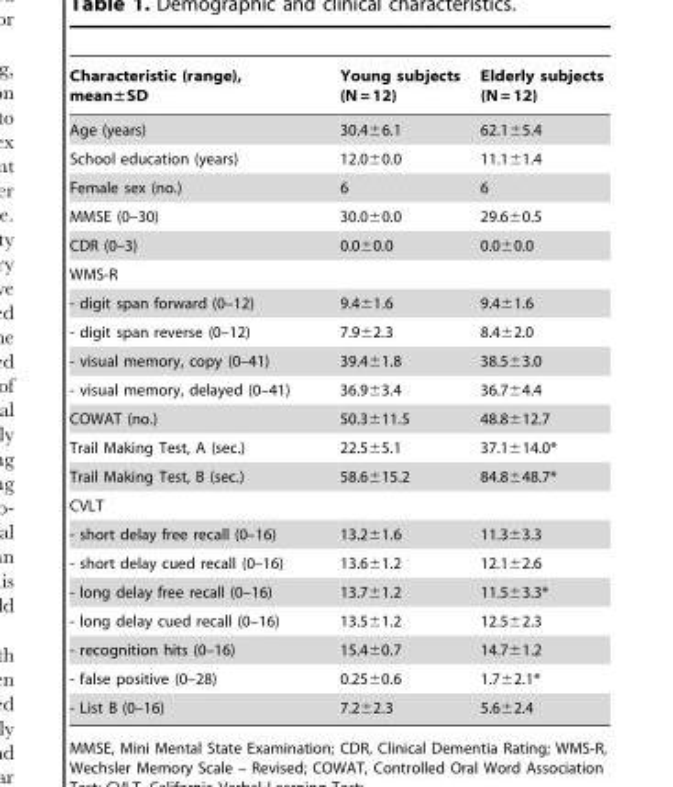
<table><thead><tr><td>Characteristic (range), mean±SD</td><td>Young subjects (N = 12)</td><td>Elderly subjects (N = 12)</td></tr></thead><tbody><tr><td>Age (years)</td><td>30.4±6.1</td><td>62.1±5.4</td></tr><tr><td>School education (years)</td><td>12.0±0.0</td><td>11.1±1.4</td></tr><tr><td>Female sex (no.)</td><td>6</td><td>6</td></tr><tr><td>MMSE (0–30)</td><td>30.0±0.0</td><td>29.6±0.5</td></tr><tr><td>CDR (0–3)</td><td>0.0±0.0</td><td>0.0±0.0</td></tr><tr><td colspan="3">WMS-R</td></tr><tr><td>- digit span forward (0–12)</td><td>9.4±1.6</td><td>9.4±1.6</td></tr><tr><td>- digit span reverse (0–12)</td><td>7.9±2.3</td><td>8.4±2.0</td></tr><tr><td>- visual memory, copy (0–41)</td><td>39.4±1.8</td><td>38.5±3.0</td></tr><tr><td>- visual memory, delayed (0–41)</td><td>36.9±3.4</td><td>36.7±4.4</td></tr><tr><td>COWAT (no.)</td><td>50.3±11.5</td><td>48.8±12.7</td></tr><tr><td>Trail Making Test, A (sec.)</td><td>22.5±5.1</td><td>37.1±14.0*</td></tr><tr><td>Trail Making Test, B (sec.)</td><td>58.6±15.2</td><td>84.8±48.7*</td></tr><tr><td colspan="3">CVLT</td></tr><tr><td>- short delay free recall (0–16)</td><td>13.2±1.6</td><td>11.3±3.3</td></tr><tr><td>- short delay cued recall (0–16)</td><td>13.6±1.2</td><td>12.1±2.6</td></tr><tr><td>- long delay free recall (0–16)</td><td>13.7±1.2</td><td>11.5±3.3*</td></tr><tr><td>- long delay cued recall (0–16)</td><td>13.5±1.2</td><td>12.5±2.3</td></tr><tr><td>- recognition hits (0–16)</td><td>15.4±0.7</td><td>14.7±1.2</td></tr><tr><td>- false positive (0–28)</td><td>0.25±0.6</td><td>1.7±2.1*</td></tr><tr><td>- List B (0–16)</td><td>7.2±2.3</td><td>5.6±2.4</td></tr></tbody></table>